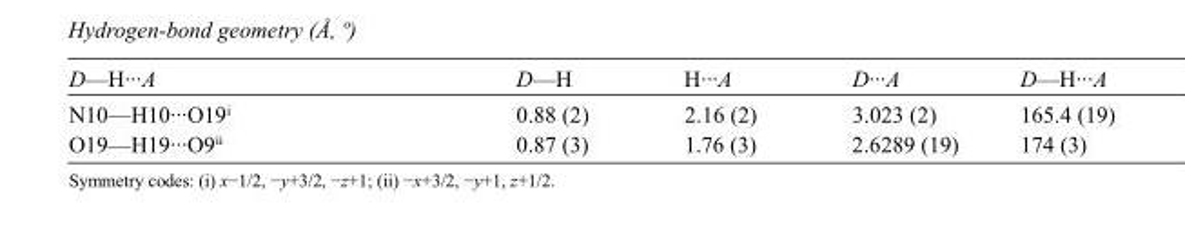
<table><tbody><tr><td>D—H···A</td><td>D—H</td><td>H···A</td><td>D···A</td><td>D—H···A</td></tr><tr><td>N10—H10···O19<sup>i</sup></td><td>0.88 (2)</td><td>2.16 (2)</td><td>3.023 (2)</td><td>165.4 (19)</td></tr><tr><td>O19—H19···O9<sup>ii</sup></td><td>0.87 (3)</td><td>1.76 (3)</td><td>2.6289 (19)</td><td>174 (3)</td></tr></tbody></table>